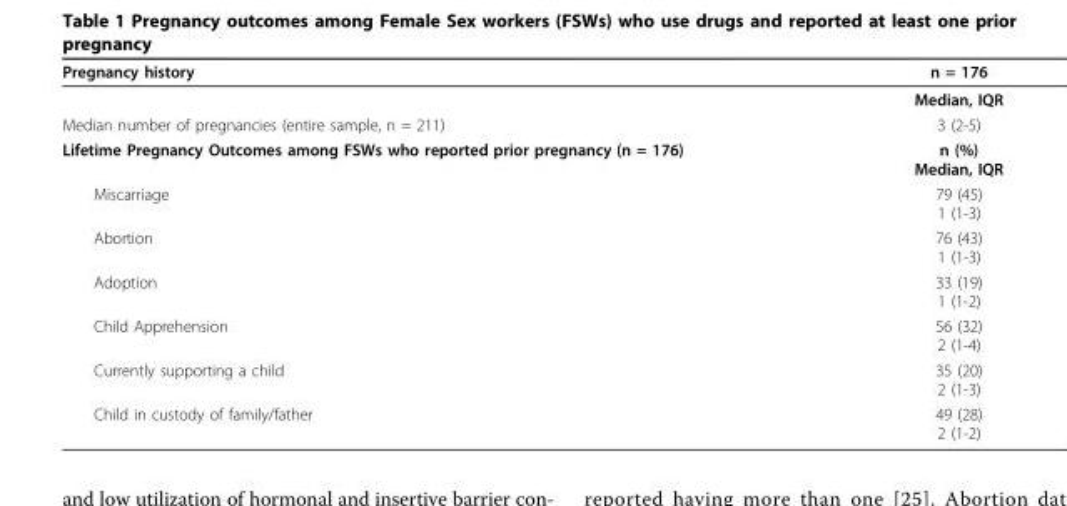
<table><thead><tr><td>Pregnancy history</td><td>n = 176</td></tr></thead><tbody><tr><td></td><td>Median, IQR</td></tr><tr><td>Median number of pregnancies (entire sample, n = 211)</td><td>3 (2-5)</td></tr><tr><td>Lifetime Pregnancy Outcomes among FSWs who reported prior pregnancy (n = 176)</td><td>n (%) Median, IQR</td></tr><tr><td>Miscarriage</td><td>79 (45) 1 (1-3)</td></tr><tr><td>Abortion</td><td>76 (43) 1 (1-3)</td></tr><tr><td>Adoption</td><td>33 (19) 1 (1-2)</td></tr><tr><td>Child Apprehension</td><td>56 (32) 2 (1-4)</td></tr><tr><td>Currently supporting a child</td><td>35 (20) 2 (1-3)</td></tr><tr><td>Child in custody of family/father</td><td>49 (28) 2 (1-2)</td></tr></tbody></table>